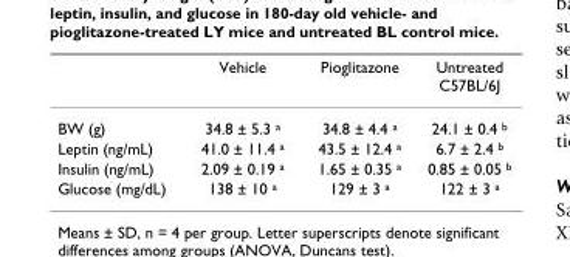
<table><thead><tr><td></td><td>Vehicle</td><td>Pioglitazone</td><td>Untreated C57BL/6J</td></tr></thead><tbody><tr><td>BW (g)</td><td>34.8 ± 5.3 <sup>a</sup></td><td>34.8 ± 4.4 <sup>a</sup></td><td>24.1 ± 0.4 <sup>b</sup></td></tr><tr><td>Leptin (ng/mL)</td><td>41.0 ± 11.4 <sup>a</sup></td><td>43.5 ± 12.4 <sup>a</sup></td><td>6.7 ± 2.4 <sup>b</sup></td></tr><tr><td>Insulin (ng/mL)</td><td>2.09 ± 0.19 <sup>a</sup></td><td>1.65 ± 0.35 <sup>a</sup></td><td>0.85 ± 0.05 <sup>b</sup></td></tr><tr><td>Glucose (mg/dL)</td><td>138 ± 10 <sup>a</sup></td><td>129 ± 3 <sup>a</sup></td><td>122 ± 3 <sup>a</sup></td></tr></tbody></table>